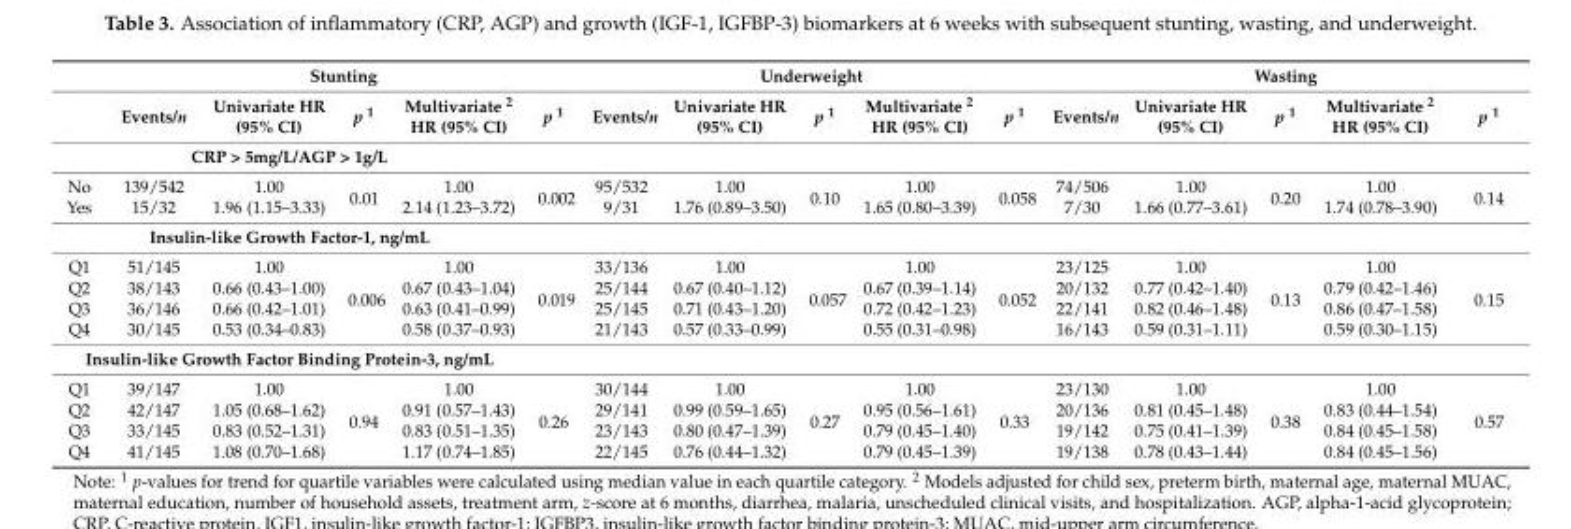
<table><thead><tr><td rowspan="2"></td><td colspan="5">Stunting</td><td colspan="5">Underweight</td><td colspan="5">Wasting</td></tr><tr><td>Events/n</td><td>Univariate HR (95% CI)</td><td>p <sup>1</sup></td><td>Multivariate <sup>2</sup> HR (95% CI)</td><td>p <sup>1</sup></td><td>Events/n</td><td>Univariate HR (95% CI)</td><td>p <sup>1</sup></td><td>Multivariate <sup>2</sup> HR (95% CI)</td><td>p <sup>1</sup></td><td>Events/n</td><td>Univariate HR (95% CI)</td><td>p <sup>1</sup></td><td>Multivariate <sup>2</sup> HR (95% CI)</td><td>p <sup>1</sup></td></tr></thead><tbody><tr><td colspan="16">CRP &gt; 5mg/L/AGP &gt; 1g/L</td></tr><tr><td>No</td><td>139/542</td><td>1.00</td><td rowspan="2">0.01</td><td>1.00</td><td rowspan="2">0.002</td><td>95/532</td><td>1.00</td><td rowspan="2">0.10</td><td>1.00</td><td rowspan="2">0.058</td><td>74/506</td><td>1.00</td><td rowspan="2">0.20</td><td>1.00</td><td rowspan="2">0.14</td></tr><tr><td>Yes</td><td>15/32</td><td>1.96 (1.15–3.33)</td><td>2.14 (1.23–3.72)</td><td>9/31</td><td>1.76 (0.89–3.50)</td><td>1.65 (0.80–3.39)</td><td>7/30</td><td>1.66 (0.77–3.61)</td><td>1.74 (0.78–3.90)</td></tr><tr><td colspan="16">Insulin-like Growth Factor-1, ng/mL</td></tr><tr><td>Q1</td><td>51/145</td><td>1.00</td><td rowspan="4">0.006</td><td>1.00</td><td rowspan="4">0.019</td><td>33/136</td><td>1.00</td><td rowspan="4">0.057</td><td>1.00</td><td rowspan="4">0.052</td><td>23/125</td><td>1.00</td><td rowspan="4">0.13</td><td>1.00</td><td rowspan="4">0.15</td></tr><tr><td>Q2</td><td>38/143</td><td>0.66 (0.43–1.00)</td><td>0.67 (0.43–1.04)</td><td>25/144</td><td>0.67 (0.40–1.12)</td><td>0.67 (0.39–1.14)</td><td>20/132</td><td>0.77 (0.42–1.40)</td><td>0.79 (0.42–1.46)</td></tr><tr><td>Q3</td><td>36/146</td><td>0.66 (0.42–1.01)</td><td>0.63 (0.41–0.99)</td><td>25/145</td><td>0.71 (0.43–1.20)</td><td>0.72 (0.42–1.23)</td><td>22/141</td><td>0.82 (0.46–1.48)</td><td>0.86 (0.47–1.58)</td></tr><tr><td>Q4</td><td>30/145</td><td>0.53 (0.34–0.83)</td><td>0.58 (0.37–0.93)</td><td>21/143</td><td>0.57 (0.33–0.99)</td><td>0.55 (0.31–0.98)</td><td>16/143</td><td>0.59 (0.31–1.11)</td><td>0.59 (0.30–1.15)</td></tr><tr><td colspan="16">Insulin-like Growth Factor Binding Protein-3, ng/mL</td></tr><tr><td>Q1</td><td>39/147</td><td>1.00</td><td rowspan="4">0.94</td><td>1.00</td><td rowspan="4">0.26</td><td>30/144</td><td>1.00</td><td rowspan="4">0.27</td><td>1.00</td><td rowspan="4">0.33</td><td>23/130</td><td>1.00</td><td rowspan="4">0.38</td><td>1.00</td><td rowspan="4">0.57</td></tr><tr><td>Q2</td><td>42/147</td><td>1.05 (0.68–1.62)</td><td>0.91 (0.57–1.43)</td><td>29/141</td><td>0.99 (0.59–1.65)</td><td>0.95 (0.56–1.61)</td><td>20/136</td><td>0.81 (0.45–1.48)</td><td>0.83 (0.44–1.54)</td></tr><tr><td>Q3</td><td>33/145</td><td>0.83 (0.52–1.31)</td><td>0.83 (0.51–1.35)</td><td>23/143</td><td>0.80 (0.47–1.39)</td><td>0.79 (0.45–1.40)</td><td>19/142</td><td>0.75 (0.41–1.39)</td><td>0.84 (0.45–1.58)</td></tr><tr><td>Q4</td><td>41/145</td><td>1.08 (0.70–1.68)</td><td>1.17 (0.74–1.85)</td><td>22/145</td><td>0.76 (0.44–1.32)</td><td>0.79 (0.45–1.39)</td><td>19/138</td><td>0.78 (0.43–1.44)</td><td>0.84 (0.45–1.56)</td></tr></tbody></table>